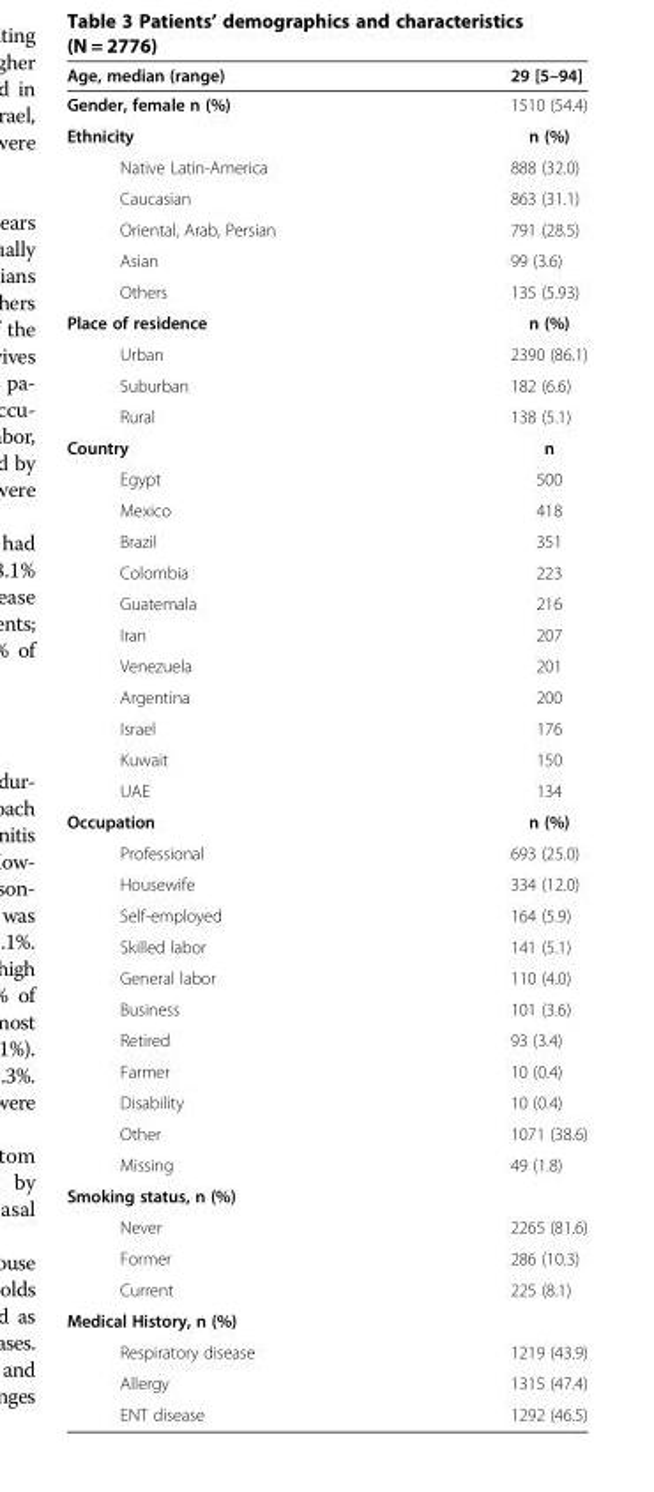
<table><thead><tr><td>Age, median (range)</td><td>29 [5–94]</td></tr></thead><tbody><tr><td>Gender, female n (%)</td><td>1510 (54.4)</td></tr><tr><td>Ethnicity</td><td>n (%)</td></tr><tr><td>Native Latin-America</td><td>888 (32.0)</td></tr><tr><td>Caucasian</td><td>863 (31.1)</td></tr><tr><td>Oriental, Arab, Persian</td><td>791 (28.5)</td></tr><tr><td>Asian</td><td>99 (3.6)</td></tr><tr><td>Others</td><td>135 (5.93)</td></tr><tr><td>Place of residence</td><td>n (%)</td></tr><tr><td>Urban</td><td>2390 (86.1)</td></tr><tr><td>Suburban</td><td>182 (6.6)</td></tr><tr><td>Rural</td><td>138 (5.1)</td></tr><tr><td>Country</td><td>n</td></tr><tr><td>Egypt</td><td>500</td></tr><tr><td>Mexico</td><td>418</td></tr><tr><td>Brazil</td><td>351</td></tr><tr><td>Colombia</td><td>223</td></tr><tr><td>Guatemala</td><td>216</td></tr><tr><td>Iran</td><td>207</td></tr><tr><td>Venezuela</td><td>201</td></tr><tr><td>Argentina</td><td>200</td></tr><tr><td>Israel</td><td>176</td></tr><tr><td>Kuwait</td><td>150</td></tr><tr><td>UAE</td><td>134</td></tr><tr><td>Occupation</td><td>n (%)</td></tr><tr><td>Professional</td><td>693 (25.0)</td></tr><tr><td>Housewife</td><td>334 (12.0)</td></tr><tr><td>Self-employed</td><td>164 (5.9)</td></tr><tr><td>Skilled labor</td><td>141 (5.1)</td></tr><tr><td>General labor</td><td>110 (4.0)</td></tr><tr><td>Business</td><td>101 (3.6)</td></tr><tr><td>Retired</td><td>93 (3.4)</td></tr><tr><td>Farmer</td><td>10 (0.4)</td></tr><tr><td>Disability</td><td>10 (0.4)</td></tr><tr><td>Other</td><td>1071 (38.6)</td></tr><tr><td>Missing</td><td>49 (1.8)</td></tr><tr><td colspan="2">Smoking status, n (%)</td></tr><tr><td>Never</td><td>2265 (81.6)</td></tr><tr><td>Former</td><td>286 (10.3)</td></tr><tr><td>Current</td><td>225 (8.1)</td></tr><tr><td colspan="2">Medical History, n (%)</td></tr><tr><td>Respiratory disease</td><td>1219 (43.9)</td></tr><tr><td>Allergy</td><td>1315 (47.4)</td></tr><tr><td>ENT disease</td><td>1292 (46.5)</td></tr></tbody></table>